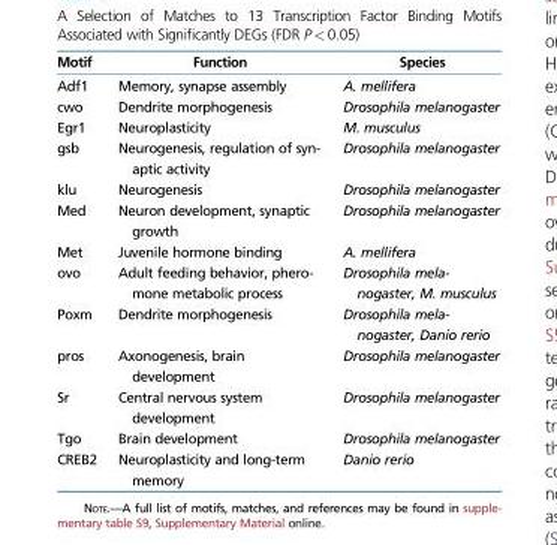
<table><thead><tr><td>Motif</td><td>Function</td><td>Species</td></tr></thead><tbody><tr><td>Adf1</td><td>Memory, synapse assembly</td><td>A. mellifera</td></tr><tr><td>cwo</td><td>Dendrite morphogenesis</td><td>Drosophila melanogaster</td></tr><tr><td>Egr1</td><td>Neuroplasticity</td><td>M. musculus</td></tr><tr><td>gsb</td><td>Neurogenesis, regulation of syn- aptic activity</td><td>Drosophila melanogaster</td></tr><tr><td>klu</td><td>Neurogenesis</td><td>Drosophila melanogaster</td></tr><tr><td>Med</td><td>Neuron development, synaptic growth</td><td>Drosophila melanogaster</td></tr><tr><td>Met</td><td>Juvenile hormone binding</td><td>A. mellifera</td></tr><tr><td>ovo</td><td>Adult feeding behavior, phero- mone metabolic process</td><td>Drosophila mela- nogaster, M. musculus</td></tr><tr><td>Poxm</td><td>Dendrite morphogenesis</td><td>Drosophila mela- nogaster, Danio rerio</td></tr><tr><td>pros</td><td>Axonogenesis, brain development</td><td>Drosophila melanogaster</td></tr><tr><td>Sr</td><td>Central nervous system development</td><td>Drosophila melanogaster</td></tr><tr><td>Tgo</td><td>Brain development</td><td>Drosophila melanogaster</td></tr><tr><td>CREB2</td><td>Neuroplasticity and long-term memory</td><td>Danio rerio</td></tr></tbody></table>